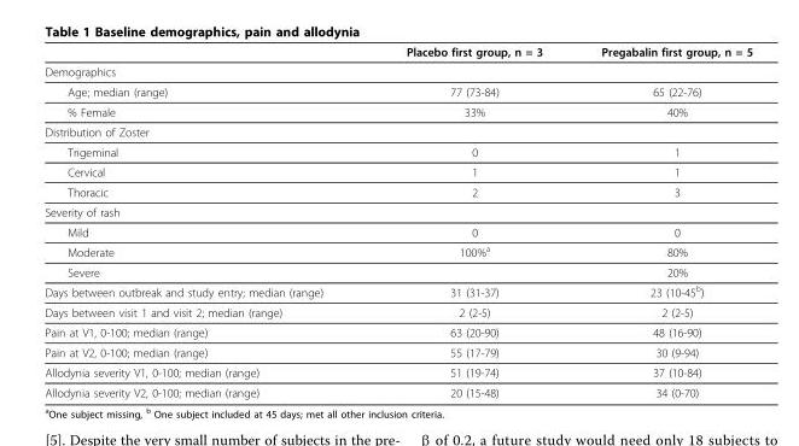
<table><thead><tr><td></td><td>Placebo first group, n = 3</td><td>Pregabalin first group, n = 5</td></tr></thead><tbody><tr><td colspan="3">Demographics</td></tr><tr><td>Age; median (range)</td><td>77 (73-84)</td><td>65 (22-76)</td></tr><tr><td>% Female</td><td>33%</td><td>40%</td></tr><tr><td colspan="3">Distribution of Zoster</td></tr><tr><td>Trigeminal</td><td>0</td><td>1</td></tr><tr><td>Cervical</td><td>1</td><td>1</td></tr><tr><td>Thoracic</td><td>2</td><td>3</td></tr><tr><td colspan="3">Severity of rash</td></tr><tr><td>Mild</td><td>0</td><td>0</td></tr><tr><td>Moderate</td><td>100%<sup>a</sup></td><td>80%</td></tr><tr><td>Severe</td><td></td><td>20%</td></tr><tr><td>Days between outbreak and study entry; median (range)</td><td>31 (31-37)</td><td>23 (10-45<sup>b</sup>)</td></tr><tr><td>Days between visit 1 and visit 2; median (range)</td><td>2 (2-5)</td><td>2 (2-5)</td></tr><tr><td>Pain at V1, 0-100; median (range)</td><td>63 (20-90)</td><td>48 (16-90)</td></tr><tr><td>Pain at V2, 0-100; median (range)</td><td>55 (17-79)</td><td>30 (9-94)</td></tr><tr><td>Allodynia severity V1, 0-100; median (range)</td><td>51 (19-74)</td><td>37 (10-84)</td></tr><tr><td>Allodynia severity V2, 0-100; median (range)</td><td>20 (15-48)</td><td>34 (0-70)</td></tr></tbody></table>